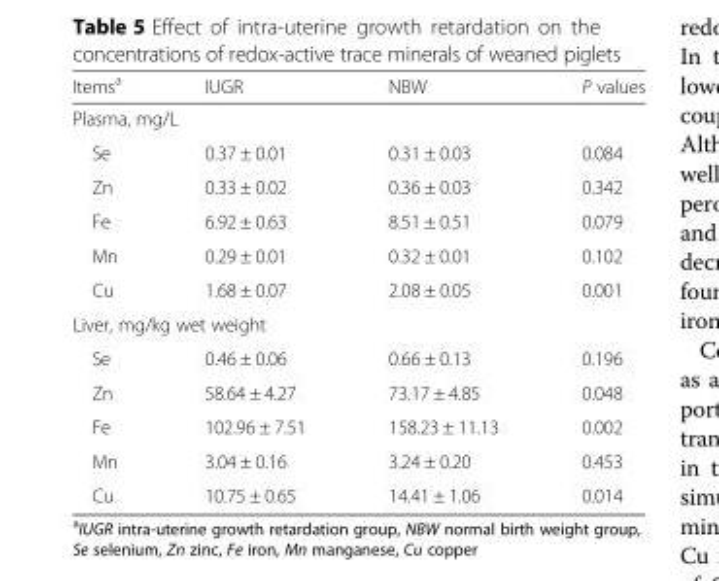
<table><thead><tr><td>Items<sup>a</sup></td><td>IUGR</td><td>NBW</td><td>P values</td></tr></thead><tbody><tr><td colspan="4">Plasma, mg/L</td></tr><tr><td>Se</td><td>0.37 ± 0.01</td><td>0.31 ± 0.03</td><td>0.084</td></tr><tr><td>Zn</td><td>0.33 ± 0.02</td><td>0.36 ± 0.03</td><td>0.342</td></tr><tr><td>Fe</td><td>6.92 ± 0.63</td><td>8.51 ± 0.51</td><td>0.079</td></tr><tr><td>Mn</td><td>0.29 ± 0.01</td><td>0.32 ± 0.01</td><td>0.102</td></tr><tr><td>Cu</td><td>1.68 ± 0.07</td><td>2.08 ± 0.05</td><td>0.001</td></tr><tr><td colspan="4">Liver, mg/kg wet weight</td></tr><tr><td>Se</td><td>0.46 ± 0.06</td><td>0.66 ± 0.13</td><td>0.196</td></tr><tr><td>Zn</td><td>58.64 ± 4.27</td><td>73.17 ± 4.85</td><td>0.048</td></tr><tr><td>Fe</td><td>102.96 ± 7.51</td><td>158.23 ± 11.13</td><td>0.002</td></tr><tr><td>Mn</td><td>3.04 ± 0.16</td><td>3.24 ± 0.20</td><td>0.453</td></tr><tr><td>Cu</td><td>10.75 ± 0.65</td><td>14.41 ± 1.06</td><td>0.014</td></tr></tbody></table>